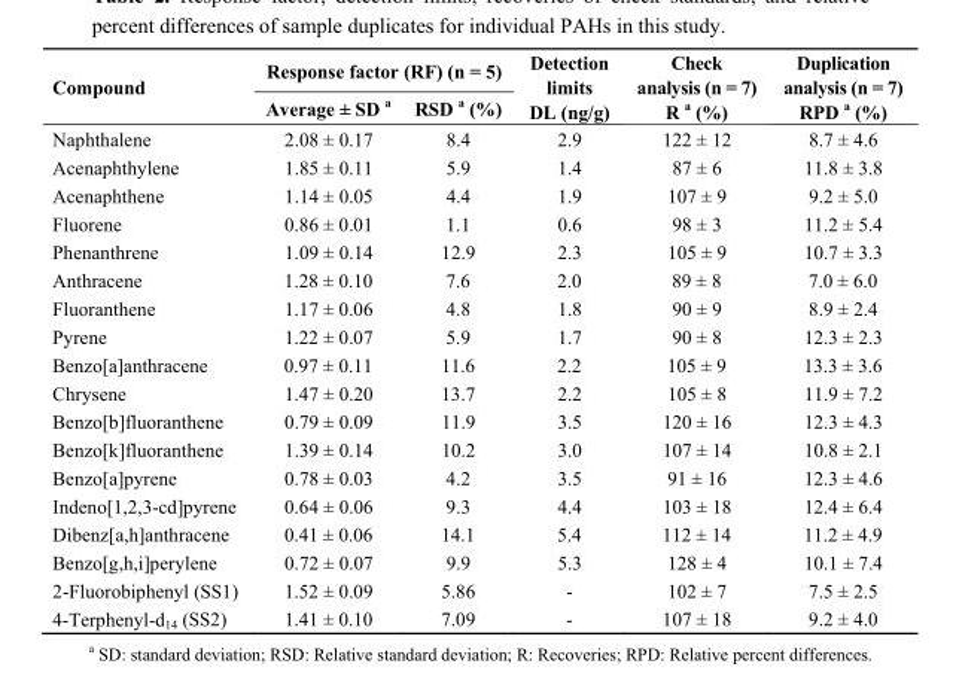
<table><thead><tr><td rowspan="2">Compound</td><td colspan="2">Response factor (RF) (n = 5)</td><td rowspan="2">Detection limits DL (ng/g)</td><td rowspan="2">Check analysis (n = 7) R <sup>a</sup> (%)</td><td rowspan="2">Duplication analysis (n = 7) RPD <sup>a</sup> (%)</td></tr><tr><td>Average ± SD <sup>a</sup></td><td>RSD <sup>a</sup> (%)</td></tr></thead><tbody><tr><td>Naphthalene</td><td>2.08 ± 0.17</td><td>8.4</td><td>2.9</td><td>122 ± 12</td><td>8.7 ± 4.6</td></tr><tr><td>Acenaphthylene</td><td>1.85 ± 0.11</td><td>5.9</td><td>1.4</td><td>87 ± 6</td><td>11.8 ± 3.8</td></tr><tr><td>Acenaphthene</td><td>1.14 ± 0.05</td><td>4.4</td><td>1.9</td><td>107 ± 9</td><td>9.2 ± 5.0</td></tr><tr><td>Fluorene</td><td>0.86 ± 0.01</td><td>1.1</td><td>0.6</td><td>98 ± 3</td><td>11.2 ± 5.4</td></tr><tr><td>Phenanthrene</td><td>1.09 ± 0.14</td><td>12.9</td><td>2.3</td><td>105 ± 9</td><td>10.7 ± 3.3</td></tr><tr><td>Anthracene</td><td>1.28 ± 0.10</td><td>7.6</td><td>2.0</td><td>89 ± 8</td><td>7.0 ± 6.0</td></tr><tr><td>Fluoranthene</td><td>1.17 ± 0.06</td><td>4.8</td><td>1.8</td><td>90 ± 9</td><td>8.9 ± 2.4</td></tr><tr><td>Pyrene</td><td>1.22 ± 0.07</td><td>5.9</td><td>1.7</td><td>90 ± 8</td><td>12.3 ± 2.3</td></tr><tr><td>Benzo[a]anthracene</td><td>0.97 ± 0.11</td><td>11.6</td><td>2.2</td><td>105 ± 9</td><td>13.3 ± 3.6</td></tr><tr><td>Chrysene</td><td>1.47 ± 0.20</td><td>13.7</td><td>2.2</td><td>105 ± 8</td><td>11.9 ± 7.2</td></tr><tr><td>Benzo[b]fluoranthene</td><td>0.79 ± 0.09</td><td>11.9</td><td>3.5</td><td>120 ± 16</td><td>12.3 ± 4.3</td></tr><tr><td>Benzo[k]fluoranthene</td><td>1.39 ± 0.14</td><td>10.2</td><td>3.0</td><td>107 ± 14</td><td>10.8 ± 2.1</td></tr><tr><td>Benzo[a]pyrene</td><td>0.78 ± 0.03</td><td>4.2</td><td>3.5</td><td>91 ± 16</td><td>12.3 ± 4.6</td></tr><tr><td>Indeno[1,2,3-cd]pyrene</td><td>0.64 ± 0.06</td><td>9.3</td><td>4.4</td><td>103 ± 18</td><td>12.4 ± 6.4</td></tr><tr><td>Dibenz[a,h]anthracene</td><td>0.41 ± 0.06</td><td>14.1</td><td>5.4</td><td>112 ± 14</td><td>11.2 ± 4.9</td></tr><tr><td>Benzo[g,h,i]perylene</td><td>0.72 ± 0.07</td><td>9.9</td><td>5.3</td><td>128 ± 4</td><td>10.1 ± 7.4</td></tr><tr><td>2-Fluorobiphenyl (SS1)</td><td>1.52 ± 0.09</td><td>5.86</td><td>-</td><td>102 ± 7</td><td>7.5 ± 2.5</td></tr><tr><td>4-Terphenyl-d<sub>14</sub> (SS2)</td><td>1.41 ± 0.10</td><td>7.09</td><td>-</td><td>107 ± 18</td><td>9.2 ± 4.0</td></tr></tbody></table>